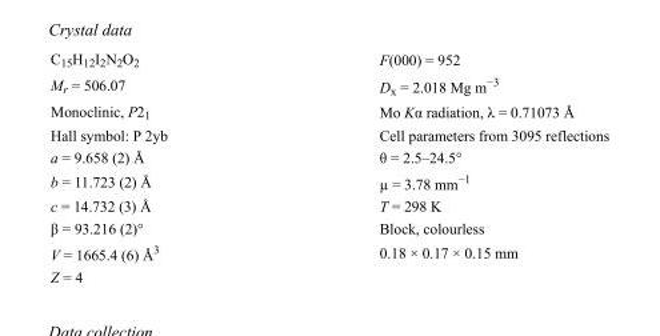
<table><tbody><tr><td>C<sub>15</sub>H<sub>12</sub>I<sub>2</sub>N<sub>2</sub>O<sub>2</sub></td><td>F(000) = 952</td></tr><tr><td>M<sub>r</sub> = 506.07</td><td>D<sub>x</sub> = 2.018 Mg m<sup>−3</sup></td></tr><tr><td>Monoclinic, P2<sub>1</sub></td><td>Mo Kα radiation, λ = 0.71073 Å</td></tr><tr><td>Hall symbol: P 2yb</td><td>Cell parameters from 3095 reflections</td></tr><tr><td>a = 9.658 (2) Å</td><td>θ = 2.5–24.5°</td></tr><tr><td>b = 11.723 (2) Å</td><td>µ = 3.78 mm<sup>−1</sup></td></tr><tr><td>c = 14.732 (3) Å</td><td>T = 298 K</td></tr><tr><td>β = 93.216 (2)°</td><td>Block, colourless</td></tr><tr><td>V = 1665.4 (6) Å<sup>3</sup></td><td>0.18 × 0.17 × 0.15 mm</td></tr><tr><td>Z = 4</td><td></td></tr></tbody></table>